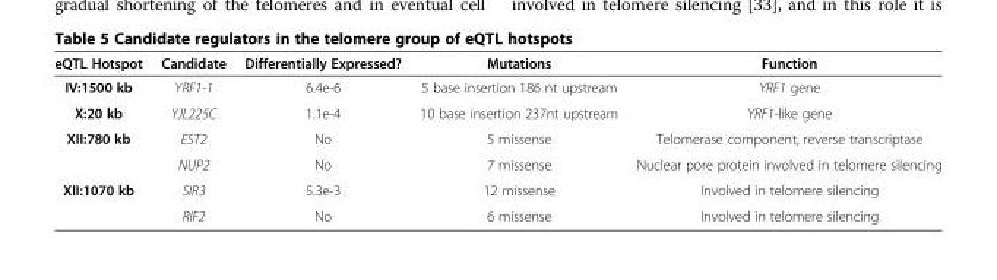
<table><thead><tr><td>eQTL Hotspot</td><td>Candidate</td><td>Differentially Expressed?</td><td>Mutations</td><td>Function</td></tr></thead><tbody><tr><td>IV:1500 kb</td><td>YRF1-1</td><td>6.4e-6</td><td>5 base insertion 186 nt upstream</td><td>YRF1 gene</td></tr><tr><td>X:20 kb</td><td>YJL225C</td><td>1.1e-4</td><td>10 base insertion 237nt upstream</td><td>YRF1-like gene</td></tr><tr><td rowspan="2">XII:780 kb</td><td>EST2</td><td>No</td><td>5 missense</td><td>Telomerase component, reverse transcriptase</td></tr><tr><td>NUP2</td><td>No</td><td>7 missense</td><td>Nuclear pore protein involved in telomere silencing</td></tr><tr><td rowspan="2">XII:1070 kb</td><td>SIR3</td><td>5.3e-3</td><td>12 missense</td><td>Involved in telomere silencing</td></tr><tr><td>RIF2</td><td>No</td><td>6 missense</td><td>Involved in telomere silencing</td></tr></tbody></table>